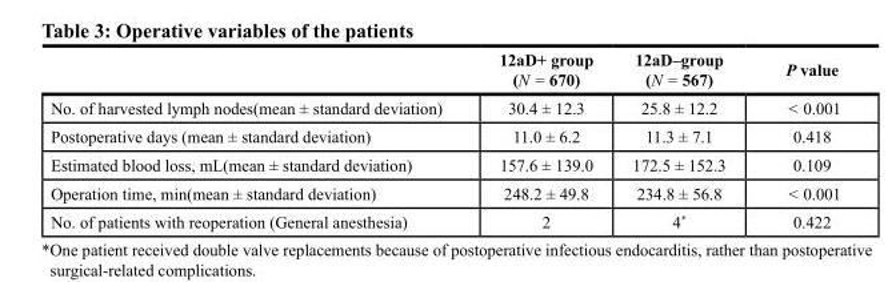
<table><thead><tr><td></td><td>12aD+ group (N = 670)</td><td>12aD–group (N = 567)</td><td>P value</td></tr></thead><tbody><tr><td>No. of harvested lymph nodes(mean ± standard deviation)</td><td>30.4 ± 12.3</td><td>25.8 ± 12.2</td><td>&lt; 0.001</td></tr><tr><td>Postoperative days (mean ± standard deviation)</td><td>11.0 ± 6.2</td><td>11.3 ± 7.1</td><td>0.418</td></tr><tr><td>Estimated blood loss, mL(mean ± standard deviation)</td><td>157.6 ± 139.0</td><td>172.5 ± 152.3</td><td>0.109</td></tr><tr><td>Operation time, min(mean ± standard deviation)</td><td>248.2 ± 49.8</td><td>234.8 ± 56.8</td><td>&lt; 0.001</td></tr><tr><td>No. of patients with reoperation (General anesthesia)</td><td>2</td><td>4*</td><td>0.422</td></tr></tbody></table>